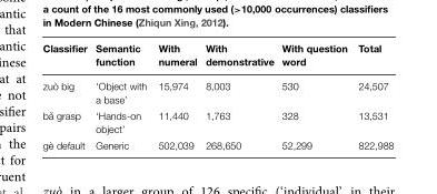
<table><thead><tr><td>Classifier</td><td>Semantic function</td><td>With numeral</td><td>With demonstrative</td><td>With question word</td><td>Total</td></tr></thead><tbody><tr><td>zuò big</td><td>‘Object with a base’</td><td>15,974</td><td>8,003</td><td>530</td><td>24,507</td></tr><tr><td>b ˇa grasp</td><td>‘Hands-on object’</td><td>11,440</td><td>1,763</td><td>328</td><td>13,531</td></tr><tr><td>gè default</td><td>Generic</td><td>502,039</td><td>268,650</td><td>52,299</td><td>822,988</td></tr></tbody></table>